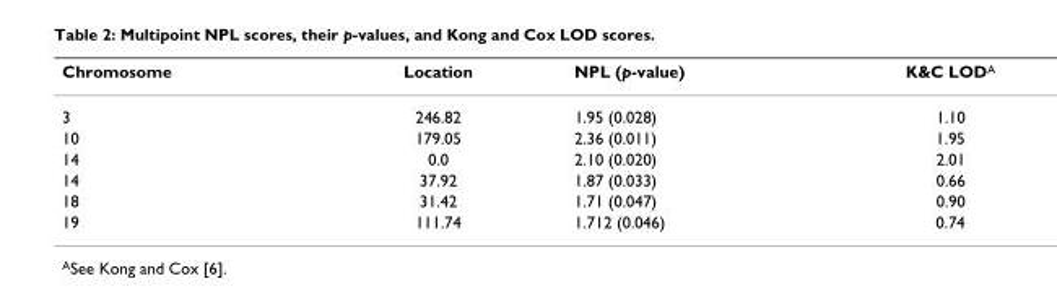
<table><thead><tr><td>Chromosome</td><td>Location</td><td>NPL (p-value)</td><td>K&amp;C LODA</td></tr></thead><tbody><tr><td>3</td><td>246.82</td><td>1.95 (0.028)</td><td>1.10</td></tr><tr><td>10</td><td>179.05</td><td>2.36 (0.011)</td><td>1.95</td></tr><tr><td>14</td><td>0.0</td><td>2.10 (0.020)</td><td>2.01</td></tr><tr><td>14</td><td>37.92</td><td>1.87 (0.033)</td><td>0.66</td></tr><tr><td>18</td><td>31.42</td><td>1.71 (0.047)</td><td>0.90</td></tr><tr><td>19</td><td>111.74</td><td>1.712 (0.046)</td><td>0.74</td></tr></tbody></table>